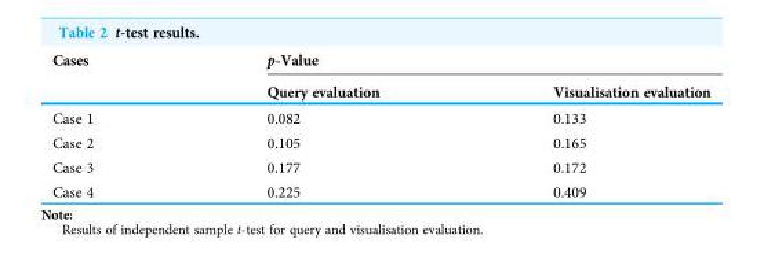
<table><thead><tr><td rowspan="2">Cases</td><td colspan="2">p-Value</td></tr><tr><td>Query evaluation</td><td>Visualisation evaluation</td></tr></thead><tbody><tr><td>Case 1</td><td>0.082</td><td>0.133</td></tr><tr><td>Case 2</td><td>0.105</td><td>0.165</td></tr><tr><td>Case 3</td><td>0.177</td><td>0.172</td></tr><tr><td>Case 4</td><td>0.225</td><td>0.409</td></tr></tbody></table>